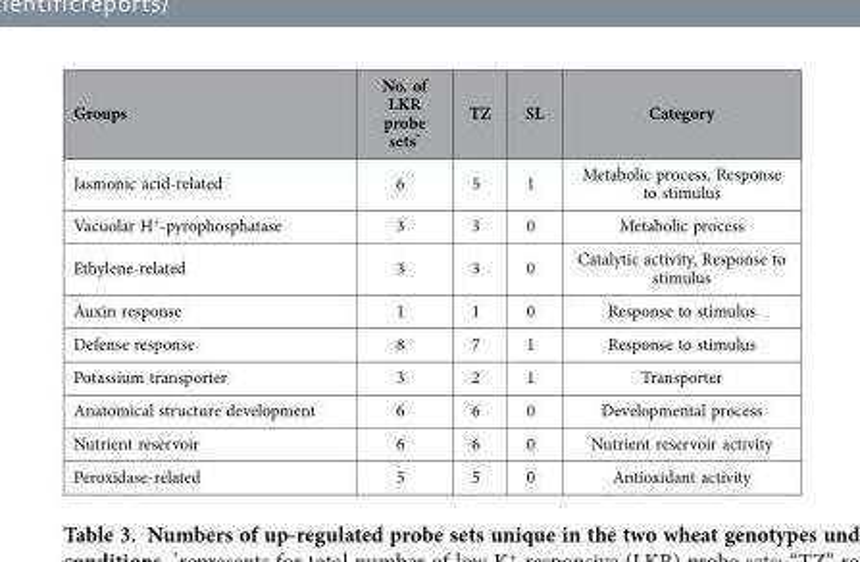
<table><tbody><tr><td>Groups</td><td>No. of LKR probe sets*</td><td>TZ</td><td>SL</td><td>Category</td></tr><tr><td>Jasmonic acid-related</td><td>6</td><td>5</td><td>1</td><td>Metabolic process, Response to stimulus</td></tr><tr><td>Vacuolar H<sup>+</sup>-pyrophosphatase</td><td>3</td><td>3</td><td>0</td><td>Metabolic process</td></tr><tr><td>Ethylene-related</td><td>3</td><td>3</td><td>0</td><td>Catalytic activity, Response to stimulus</td></tr><tr><td>Auxin response</td><td>1</td><td>1</td><td>0</td><td>Response to stimulus</td></tr><tr><td>Defense response</td><td>8</td><td>7</td><td>1</td><td>Response to stimulus</td></tr><tr><td>Potassium transporter</td><td>3</td><td>2</td><td>1</td><td>Transporter</td></tr><tr><td>Anatomical structure development</td><td>6</td><td>6</td><td>0</td><td>Developmental process</td></tr><tr><td>Nutrient reservoir</td><td>6</td><td>6</td><td>0</td><td>Nutrient reservoir activity</td></tr><tr><td>Peroxidase-related</td><td>5</td><td>5</td><td>0</td><td>Antioxidant activity</td></tr></tbody></table>